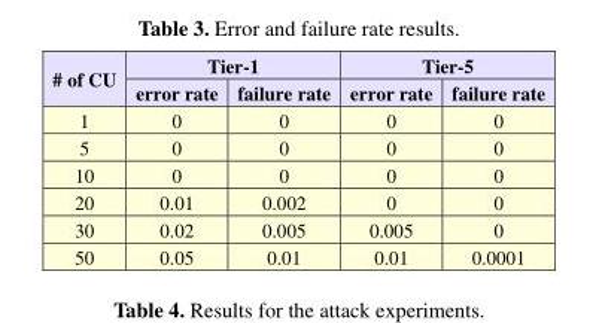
<table><thead><tr><td rowspan="2"># of CU</td><td colspan="2">Tier-1</td><td colspan="2">Tier-5</td></tr><tr><td>error rate</td><td>failure rate</td><td>error rate</td><td>failure rate</td></tr></thead><tbody><tr><td>1</td><td>0</td><td>0</td><td>0</td><td>0</td></tr><tr><td>5</td><td>0</td><td>0</td><td>0</td><td>0</td></tr><tr><td>10</td><td>0</td><td>0</td><td>0</td><td>0</td></tr><tr><td>20</td><td>0.01</td><td>0.002</td><td>0</td><td>0</td></tr><tr><td>30</td><td>0.02</td><td>0.005</td><td>0.005</td><td>0</td></tr><tr><td>50</td><td>0.05</td><td>0.01</td><td>0.01</td><td>0.0001</td></tr></tbody></table>